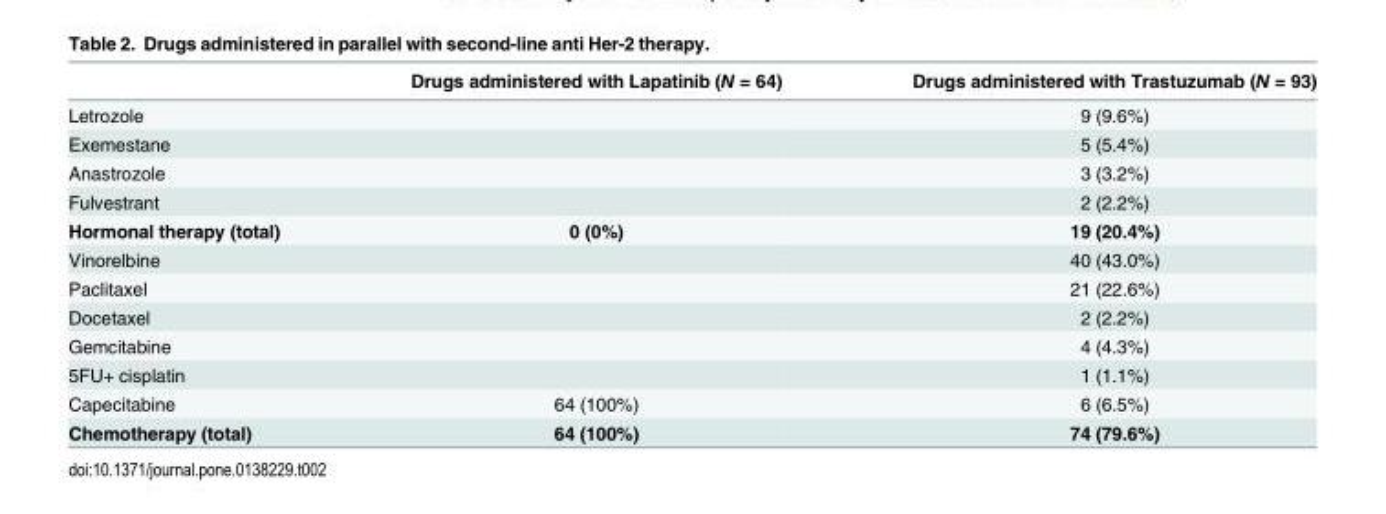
<table><thead><tr><td></td><td>Drugs administered with Lapatinib (N = 64)</td><td>Drugs administered with Trastuzumab (N = 93)</td></tr></thead><tbody><tr><td>Letrozole</td><td></td><td>9 (9.6%)</td></tr><tr><td>Exemestane</td><td></td><td>5 (5.4%)</td></tr><tr><td>Anastrozole</td><td></td><td>3 (3.2%)</td></tr><tr><td>Fulvestrant</td><td></td><td>2 (2.2%)</td></tr><tr><td>Hormonal therapy (total)</td><td>0 (0%)</td><td>19 (20.4%)</td></tr><tr><td>Vinorelbine</td><td></td><td>40 (43.0%)</td></tr><tr><td>Paclitaxel</td><td></td><td>21 (22.6%)</td></tr><tr><td>Docetaxel</td><td></td><td>2 (2.2%)</td></tr><tr><td>Gemcitabine</td><td></td><td>4 (4.3%)</td></tr><tr><td>5FU+ cisplatin</td><td></td><td>1 (1.1%)</td></tr><tr><td>Capecitabine</td><td>64 (100%)</td><td>6 (6.5%)</td></tr><tr><td>Chemotherapy (total)</td><td>64 (100%)</td><td>74 (79.6%)</td></tr></tbody></table>